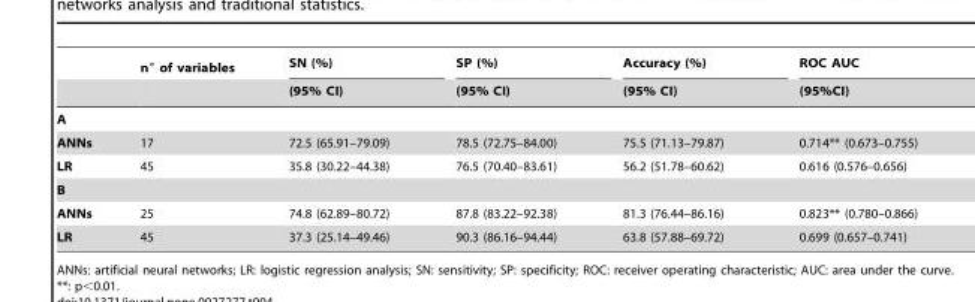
<table><thead><tr><td rowspan="2"></td><td rowspan="2">n° of variables</td><td rowspan="2">SN (%) (95% CI)</td><td rowspan="2">SP (%) (95% CI)</td><td rowspan="2">Accuracy (%) (95% CI)</td><td rowspan="2">ROC AUC (95%CI)</td></tr><tr></tr></thead><tbody><tr><td colspan="6">A</td></tr><tr><td>ANNs</td><td>17</td><td>72.5 (65.91–79.09)</td><td>78.5 (72.75–84.00)</td><td>75.5 (71.13–79.87)</td><td>0.714** (0.673–0.755)</td></tr><tr><td>LR</td><td>45</td><td>35.8 (30.22–44.38)</td><td>76.5 (70.40–83.61)</td><td>56.2 (51.78–60.62)</td><td>0.616 (0.576–0.656)</td></tr><tr><td colspan="6">B</td></tr><tr><td>ANNs</td><td>25</td><td>74.8 (62.89–80.72)</td><td>87.8 (83.22–92.38)</td><td>81.3 (76.44–86.16)</td><td>0.823** (0.780–0.866)</td></tr><tr><td>LR</td><td>45</td><td>37.3 (25.14–49.46)</td><td>90.3 (86.16–94.44)</td><td>63.8 (57.88–69.72)</td><td>0.699 (0.657–0.741)</td></tr></tbody></table>